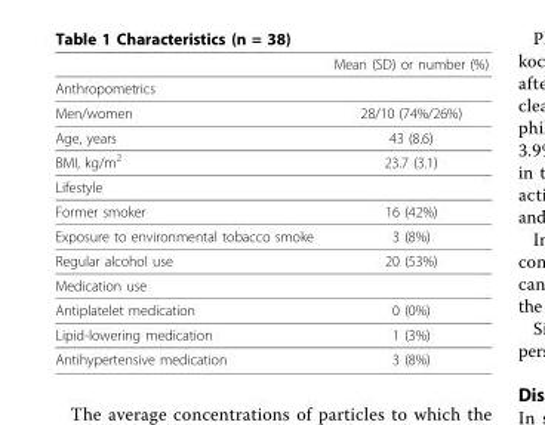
<table><thead><tr><td></td><td>Mean (SD) or number (%)</td></tr></thead><tbody><tr><td colspan="2">Anthropometrics</td></tr><tr><td>Men/women</td><td>28/10 (74%/26%)</td></tr><tr><td>Age, years</td><td>43 (8.6)</td></tr><tr><td>BMI, kg/m<sup>2</sup></td><td>23.7 (3.1)</td></tr><tr><td colspan="2">Lifestyle</td></tr><tr><td>Former smoker</td><td>16 (42%)</td></tr><tr><td>Exposure to environmental tobacco smoke</td><td>3 (8%)</td></tr><tr><td>Regular alcohol use</td><td>20 (53%)</td></tr><tr><td colspan="2">Medication use</td></tr><tr><td>Antiplatelet medication</td><td>0 (0%)</td></tr><tr><td>Lipid-lowering medication</td><td>1 (3%)</td></tr><tr><td>Antihypertensive medication</td><td>3 (8%)</td></tr></tbody></table>